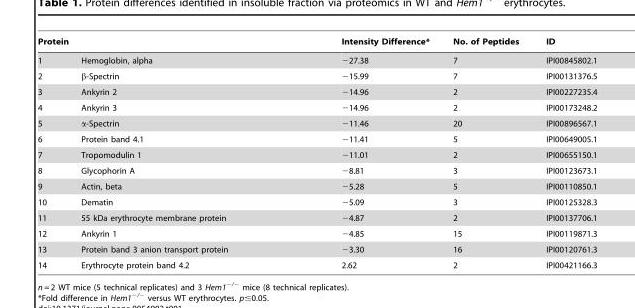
<table><thead><tr><td colspan="2">Protein</td><td rowspan="2">Intensity Difference* −27.38</td><td rowspan="2">No. of Peptides 7</td><td rowspan="2">ID IPI00845802.1</td></tr><tr><td>1</td><td>Hemoglobin, alpha</td></tr></thead><tbody><tr><td>2</td><td>β-Spectrin</td><td>−15.99</td><td>7</td><td>IPI00131376.5</td></tr><tr><td>3</td><td>Ankyrin 2</td><td>−14.96</td><td>2</td><td>IPI00227235.4</td></tr><tr><td>4</td><td>Ankyrin 3</td><td>−14.96</td><td>2</td><td>IPI00173248.2</td></tr><tr><td>5</td><td>α-Spectrin</td><td>−11.46</td><td>20</td><td>IPI00896567.1</td></tr><tr><td>6</td><td>Protein band 4.1</td><td>−11.41</td><td>5</td><td>IPI00649005.1</td></tr><tr><td>7</td><td>Tropomodulin 1</td><td>−11.01</td><td>2</td><td>IPI00655150.1</td></tr><tr><td>8</td><td>Glycophorin A</td><td>−8.81</td><td>3</td><td>IPI00123673.1</td></tr><tr><td>9</td><td>Actin, beta</td><td>−5.28</td><td>5</td><td>IPI00110850.1</td></tr><tr><td>10</td><td>Dematin</td><td>−5.09</td><td>3</td><td>IPI00125328.3</td></tr><tr><td>11</td><td>55 kDa erythrocyte membrane protein</td><td>−4.87</td><td>2</td><td>IPI00137706.1</td></tr><tr><td>12</td><td>Ankyrin 1</td><td>−4.85</td><td>15</td><td>IPI00119871.3</td></tr><tr><td>13</td><td>Protein band 3 anion transport protein</td><td>−3.30</td><td>16</td><td>IPI00120761.3</td></tr><tr><td>14</td><td>Erythrocyte protein band 4.2</td><td>2.62</td><td>2</td><td>IPI00421166.3</td></tr></tbody></table>